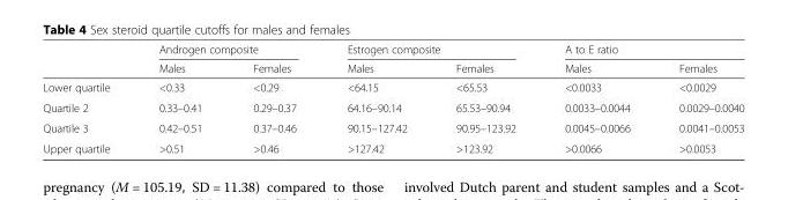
<table><thead><tr><td rowspan="2"></td><td colspan="2">Androgen composite</td><td colspan="2">Estrogen composite</td><td colspan="2">A to E ratio</td></tr><tr><td>Males</td><td>Females</td><td>Males</td><td>Females</td><td>Males</td><td>Females</td></tr></thead><tbody><tr><td>Lower quartile</td><td>&lt;0.33</td><td>&lt;0.29</td><td>&lt;64.15</td><td>&lt;65.53</td><td>&lt;0.0033</td><td>&lt;0.0029</td></tr><tr><td>Quartile 2</td><td>0.33–0.41</td><td>0.29–0.37</td><td>64.16–90.14</td><td>65.53–90.94</td><td>0.0033–0.0044</td><td>0.0029–0.0040</td></tr><tr><td>Quartile 3</td><td>0.42–0.51</td><td>0.37–0.46</td><td>90.15–127.42</td><td>90.95–123.92</td><td>0.0045–0.0066</td><td>0.0041–0.0053</td></tr><tr><td>Upper quartile</td><td>&gt;0.51</td><td>&gt;0.46</td><td>&gt;127.42</td><td>&gt;123.92</td><td>&gt;0.0066</td><td>&gt;0.0053</td></tr></tbody></table>